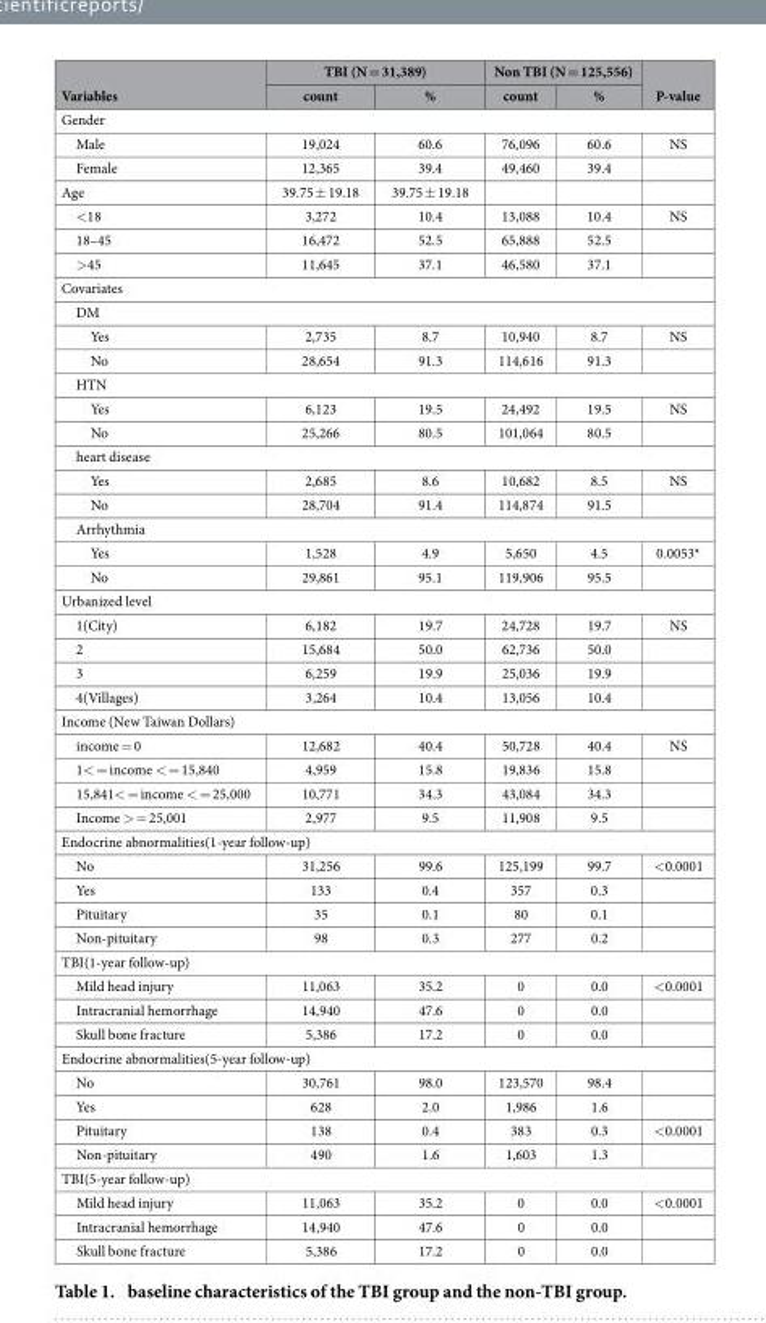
<table><thead><tr><td rowspan="2">Variables</td><td colspan="2">TBI (N = 31,389)</td><td colspan="2">Non TBI (N = 125,556)</td><td rowspan="2">P-value</td></tr><tr><td>count</td><td>%</td><td>count</td><td>%</td></tr></thead><tbody><tr><td colspan="6">Gender</td></tr><tr><td>Male</td><td>19,024</td><td>60.6</td><td>76,096</td><td>60.6</td><td>NS</td></tr><tr><td>Female</td><td>12,365</td><td>39.4</td><td>49,460</td><td>39.4</td><td></td></tr><tr><td>Age</td><td>39.75 ± 19.18</td><td>39.75 ± 19.18</td><td></td><td></td><td></td></tr><tr><td>&lt; 18</td><td>3,272</td><td>10.4</td><td>13,088</td><td>10.4</td><td>NS</td></tr><tr><td>18–45</td><td>16,472</td><td>52.5</td><td>65,888</td><td>52.5</td><td></td></tr><tr><td>&gt; 45</td><td>11,645</td><td>37.1</td><td>46,580</td><td>37.1</td><td></td></tr><tr><td colspan="6">Covariates</td></tr><tr><td colspan="6">DM</td></tr><tr><td>Yes</td><td>2,735</td><td>8.7</td><td>10,940</td><td>8.7</td><td>NS</td></tr><tr><td>No</td><td>28,654</td><td>91.3</td><td>114,616</td><td>91.3</td><td></td></tr><tr><td colspan="6">HTN</td></tr><tr><td>Yes</td><td>6,123</td><td>19.5</td><td>24,492</td><td>19.5</td><td>NS</td></tr><tr><td>No</td><td>25,266</td><td>80.5</td><td>101,064</td><td>80.5</td><td></td></tr><tr><td colspan="6">heart disease</td></tr><tr><td>Yes</td><td>2,685</td><td>8.6</td><td>10,682</td><td>8.5</td><td>NS</td></tr><tr><td>No</td><td>28,704</td><td>91.4</td><td>114,874</td><td>91.5</td><td></td></tr><tr><td colspan="6">Arrhythmia</td></tr><tr><td>Yes</td><td>1,528</td><td>4.9</td><td>5,650</td><td>4.5</td><td>0.0053*</td></tr><tr><td>No</td><td>29,861</td><td>95.1</td><td>119,906</td><td>95.5</td><td></td></tr><tr><td colspan="6">Urbanized level</td></tr><tr><td>1(City)</td><td>6,182</td><td>19.7</td><td>24,728</td><td>19.7</td><td>NS</td></tr><tr><td>2</td><td>15,684</td><td>50.0</td><td>62,736</td><td>50.0</td><td></td></tr><tr><td>3</td><td>6,259</td><td>19.9</td><td>25,036</td><td>19.9</td><td></td></tr><tr><td>4(Villages)</td><td>3,264</td><td>10.4</td><td>13,056</td><td>10.4</td><td></td></tr><tr><td colspan="6">Income (New Taiwan Dollars)</td></tr><tr><td>income = 0</td><td>12,682</td><td>40.4</td><td>50,728</td><td>40.4</td><td>NS</td></tr><tr><td>1&lt; = income &lt; = 15,840</td><td>4,959</td><td>15.8</td><td>19,836</td><td>15.8</td><td></td></tr><tr><td>15,841&lt; = income &lt; = 25,000</td><td>10,771</td><td>34.3</td><td>43,084</td><td>34.3</td><td></td></tr><tr><td>Income &gt; = 25,001</td><td>2,977</td><td>9.5</td><td>11,908</td><td>9.5</td><td></td></tr><tr><td colspan="6">Endocrine abnormalities(1-year follow-up)</td></tr><tr><td>No</td><td>31,256</td><td>99.6</td><td>125,199</td><td>99.7</td><td>&lt; 0.0001</td></tr><tr><td>Yes</td><td>133</td><td>0.4</td><td>357</td><td>0.3</td><td></td></tr><tr><td>Pituitary</td><td>35</td><td>0.1</td><td>80</td><td>0.1</td><td></td></tr><tr><td>Non-pituitary</td><td>98</td><td>0.3</td><td>277</td><td>0.2</td><td></td></tr><tr><td colspan="6">TBI(1-year follow-up)</td></tr><tr><td>Mild head injury</td><td>11,063</td><td>35.2</td><td>0</td><td>0.0</td><td>&lt; 0.0001</td></tr><tr><td>Intracranial hemorrhage</td><td>14,940</td><td>47.6</td><td>0</td><td>0.0</td><td></td></tr><tr><td>Skull bone fracture</td><td>5,386</td><td>17.2</td><td>0</td><td>0.0</td><td></td></tr><tr><td colspan="6">Endocrine abnormalities(5-year follow-up)</td></tr><tr><td>No</td><td>30,761</td><td>98.0</td><td>123,570</td><td>98.4</td><td></td></tr><tr><td>Yes</td><td>628</td><td>2.0</td><td>1,986</td><td>1.6</td><td></td></tr><tr><td>Pituitary</td><td>138</td><td>0.4</td><td>383</td><td>0.3</td><td>&lt; 0.0001</td></tr><tr><td>Non-pituitary</td><td>490</td><td>1.6</td><td>1,603</td><td>1.3</td><td></td></tr><tr><td colspan="6">TBI(5-year follow-up)</td></tr><tr><td>Mild head injury</td><td>11,063</td><td>35.2</td><td>0</td><td>0.0</td><td>&lt; 0.0001</td></tr><tr><td>Intracranial hemorrhage</td><td>14,940</td><td>47.6</td><td>0</td><td>0.0</td><td></td></tr><tr><td>Skull bone fracture</td><td>5,386</td><td>17.2</td><td>0</td><td>0.0</td><td></td></tr></tbody></table>